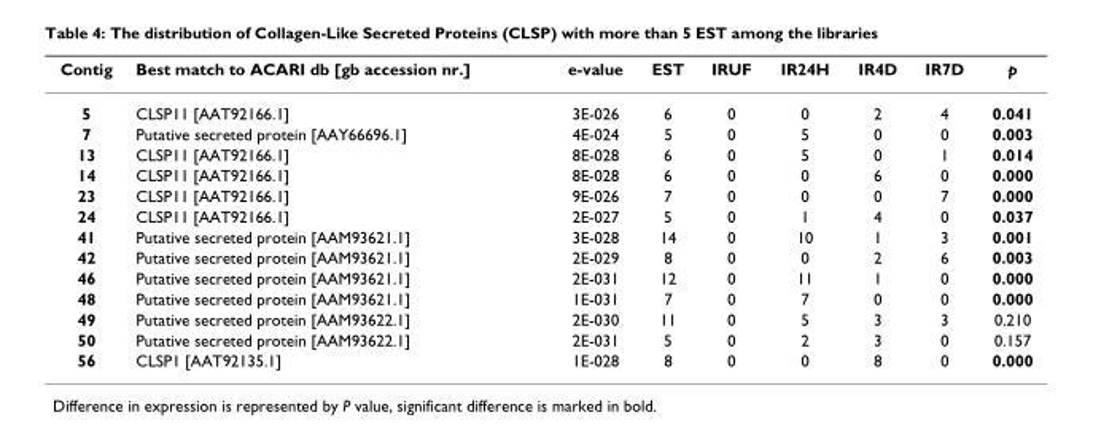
<table><thead><tr><td>Contig</td><td>Best match to ACARI db [gb accession nr.]</td><td>e-value</td><td>EST</td><td>IRUF</td><td>IR24H</td><td>IR4D</td><td>IR7D</td><td>p</td></tr></thead><tbody><tr><td>5</td><td>CLSP11 [AAT92166.1]</td><td>3E-026</td><td>6</td><td>0</td><td>0</td><td>2</td><td>4</td><td>0.041</td></tr><tr><td>7</td><td>Putative secreted protein [AAY66696.1]</td><td>4E-024</td><td>5</td><td>0</td><td>5</td><td>0</td><td>0</td><td>0.003</td></tr><tr><td>13</td><td>CLSP11 [AAT92166.1]</td><td>8E-028</td><td>6</td><td>0</td><td>5</td><td>0</td><td>1</td><td>0.014</td></tr><tr><td>14</td><td>CLSP11 [AAT92166.1]</td><td>8E-028</td><td>6</td><td>0</td><td>0</td><td>6</td><td>0</td><td>0.000</td></tr><tr><td>23</td><td>CLSP11 [AAT92166.1]</td><td>9E-026</td><td>7</td><td>0</td><td>0</td><td>0</td><td>7</td><td>0.000</td></tr><tr><td>24</td><td>CLSP11 [AAT92166.1]</td><td>2E-027</td><td>5</td><td>0</td><td>1</td><td>4</td><td>0</td><td>0.037</td></tr><tr><td>41</td><td>Putative secreted protein [AAM93621.1]</td><td>3E-028</td><td>14</td><td>0</td><td>10</td><td>1</td><td>3</td><td>0.001</td></tr><tr><td>42</td><td>Putative secreted protein [AAM93621.1]</td><td>2E-029</td><td>8</td><td>0</td><td>0</td><td>2</td><td>6</td><td>0.003</td></tr><tr><td>46</td><td>Putative secreted protein [AAM93621.1]</td><td>2E-031</td><td>12</td><td>0</td><td>11</td><td>1</td><td>0</td><td>0.000</td></tr><tr><td>48</td><td>Putative secreted protein [AAM93621.1]</td><td>1E-031</td><td>7</td><td>0</td><td>7</td><td>0</td><td>0</td><td>0.000</td></tr><tr><td>49</td><td>Putative secreted protein [AAM93622.1]</td><td>2E-030</td><td>11</td><td>0</td><td>5</td><td>3</td><td>3</td><td>0.210</td></tr><tr><td>50</td><td>Putative secreted protein [AAM93622.1]</td><td>2E-031</td><td>5</td><td>0</td><td>2</td><td>3</td><td>0</td><td>0.157</td></tr><tr><td>56</td><td>CLSP1 [AAT92135.1]</td><td>1E-028</td><td>8</td><td>0</td><td>0</td><td>8</td><td>0</td><td>0.000</td></tr></tbody></table>